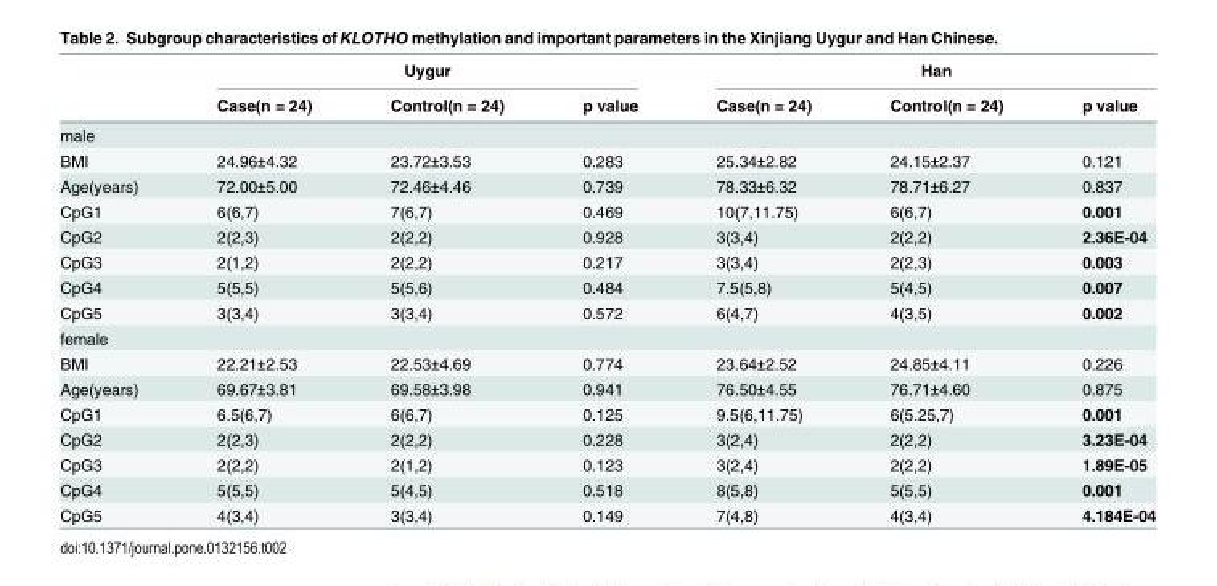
<table><thead><tr><td rowspan="2"></td><td colspan="3">Uygur</td><td colspan="3">Han</td></tr><tr><td>Case(n = 24)</td><td>Control(n = 24)</td><td>p value</td><td>Case(n = 24)</td><td>Control(n = 24)</td><td>p value</td></tr></thead><tbody><tr><td colspan="7">male</td></tr><tr><td>BMI</td><td>24.96±4.32</td><td>23.72±3.53</td><td>0.283</td><td>25.34±2.82</td><td>24.15±2.37</td><td>0.121</td></tr><tr><td>Age(years)</td><td>72.00±5.00</td><td>72.46±4.46</td><td>0.739</td><td>78.33±6.32</td><td>78.71±6.27</td><td>0.837</td></tr><tr><td>CpG1</td><td>6(6,7)</td><td>7(6,7)</td><td>0.469</td><td>10(7,11.75)</td><td>6(6,7)</td><td>0.001</td></tr><tr><td>CpG2</td><td>2(2,3)</td><td>2(2,2)</td><td>0.928</td><td>3(3,4)</td><td>2(2,2)</td><td>2.36E-04</td></tr><tr><td>CpG3</td><td>2(1,2)</td><td>2(2,2)</td><td>0.217</td><td>3(3,4)</td><td>2(2,3)</td><td>0.003</td></tr><tr><td>CpG4</td><td>5(5,5)</td><td>5(5,6)</td><td>0.484</td><td>7.5(5,8)</td><td>5(4,5)</td><td>0.007</td></tr><tr><td>CpG5</td><td>3(3,4)</td><td>3(3,4)</td><td>0.572</td><td>6(4,7)</td><td>4(3,5)</td><td>0.002</td></tr><tr><td colspan="7">female</td></tr><tr><td>BMI</td><td>22.21±2.53</td><td>22.53±4.69</td><td>0.774</td><td>23.64±2.52</td><td>24.85±4.11</td><td>0.226</td></tr><tr><td>Age(years)</td><td>69.67±3.81</td><td>69.58±3.98</td><td>0.941</td><td>76.50±4.55</td><td>76.71±4.60</td><td>0.875</td></tr><tr><td>CpG1</td><td>6.5(6,7)</td><td>6(6,7)</td><td>0.125</td><td>9.5(6,11.75)</td><td>6(5.25,7)</td><td>0.001</td></tr><tr><td>CpG2</td><td>2(2,3)</td><td>2(2,2)</td><td>0.228</td><td>3(2,4)</td><td>2(2,2)</td><td>3.23E-04</td></tr><tr><td>CpG3</td><td>2(2,2)</td><td>2(1,2)</td><td>0.123</td><td>3(2,4)</td><td>2(2,2)</td><td>1.89E-05</td></tr><tr><td>CpG4</td><td>5(5,5)</td><td>5(4,5)</td><td>0.518</td><td>8(5,8)</td><td>5(5,5)</td><td>0.001</td></tr><tr><td>CpG5</td><td>4(3,4)</td><td>3(3,4)</td><td>0.149</td><td>7(4,8)</td><td>4(3,4)</td><td>4.184E-04</td></tr></tbody></table>